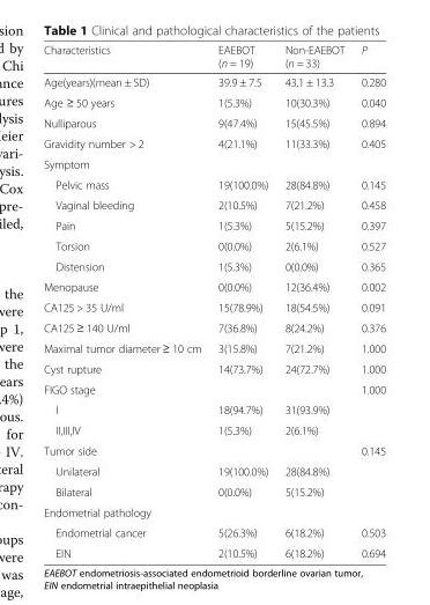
<table><thead><tr><td>Characteristics</td><td>EAEBOT (n = 19)</td><td>Non-EAEBOT (n = 33)</td><td>P</td></tr></thead><tbody><tr><td>Age(years)(mean ± SD)</td><td>39.9 ± 7.5</td><td>43.1 ± 13.3</td><td>0.280</td></tr><tr><td>Age ≥ 50 years</td><td>1(5.3%)</td><td>10(30.3%)</td><td>0.040</td></tr><tr><td>Nulliparous</td><td>9(47.4%)</td><td>15(45.5%)</td><td>0.894</td></tr><tr><td>Gravidity number &gt; 2</td><td>4(21.1%)</td><td>11(33.3%)</td><td>0.405</td></tr><tr><td colspan="4">Symptom</td></tr><tr><td>Pelvic mass</td><td>19(100.0%)</td><td>28(84.8%)</td><td>0.145</td></tr><tr><td>Vaginal bleeding</td><td>2(10.5%)</td><td>7(21.2%)</td><td>0.458</td></tr><tr><td>Pain</td><td>1(5.3%)</td><td>5(15.2%)</td><td>0.397</td></tr><tr><td>Torsion</td><td>0(0.0%)</td><td>2(6.1%)</td><td>0.527</td></tr><tr><td>Distension</td><td>1(5.3%)</td><td>0(0.0%)</td><td>0.365</td></tr><tr><td>Menopause</td><td>0(0.0%)</td><td>12(36.4%)</td><td>0.002</td></tr><tr><td>CA125 &gt; 35 U/ml</td><td>15(78.9%)</td><td>18(54.5%)</td><td>0.091</td></tr><tr><td>CA125 ≥ 140 U/ml</td><td>7(36.8%)</td><td>8(24.2%)</td><td>0.376</td></tr><tr><td>Maximal tumor diameter ≥ 10 cm</td><td>3(15.8%)</td><td>7(21.2%)</td><td>1.000</td></tr><tr><td>Cyst rupture</td><td>14(73.7%)</td><td>24(72.7%)</td><td>1.000</td></tr><tr><td colspan="3">FIGO stage</td><td rowspan="3">1.000</td></tr><tr><td>I</td><td>18(94.7%)</td><td>31(93.9%)</td></tr><tr><td>II,III,IV</td><td>1(5.3%)</td><td>2(6.1%)</td></tr><tr><td colspan="3">Tumor side</td><td rowspan="3">0.145</td></tr><tr><td>Unilateral</td><td>19(100.0%)</td><td>28(84.8%)</td></tr><tr><td>Bilateral</td><td>0(0.0%)</td><td>5(15.2%)</td></tr><tr><td colspan="4">Endometrial pathology</td></tr><tr><td>Endometrial cancer</td><td>5(26.3%)</td><td>6(18.2%)</td><td>0.503</td></tr><tr><td>EIN</td><td>2(10.5%)</td><td>6(18.2%)</td><td>0.694</td></tr></tbody></table>